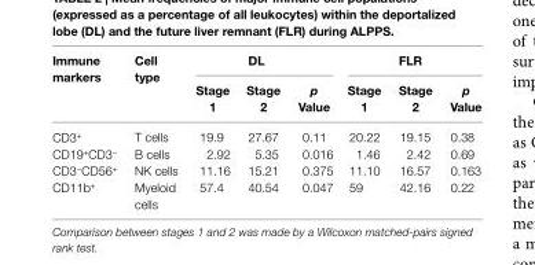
<table><thead><tr><td rowspan="2">immune markers</td><td rowspan="2">cell type</td><td colspan="3">Dl</td><td colspan="3">Flr</td></tr><tr><td>stage 1</td><td>stage 2</td><td>p Value</td><td>stage 1</td><td>stage 2</td><td>p Value</td></tr></thead><tbody><tr><td>CD3<sup>+</sup></td><td>T cells</td><td>19.9</td><td>27.67</td><td>0.11</td><td>20.22</td><td>19.15</td><td>0.38</td></tr><tr><td>CD19<sup>+</sup>CD3<sup>−</sup></td><td>B cells</td><td>2.92</td><td>5.35</td><td>0.016</td><td>1.46</td><td>2.42</td><td>0.69</td></tr><tr><td>CD3<sup>−</sup>CD56<sup>+</sup></td><td>NK cells</td><td>11.16</td><td>15.21</td><td>0.375</td><td>11.10</td><td>16.57</td><td>0.163</td></tr><tr><td>CD11b<sup>+</sup></td><td>Myeloid cells</td><td>57.4</td><td>40.54</td><td>0.047</td><td>59</td><td>42.16</td><td>0.22</td></tr></tbody></table>